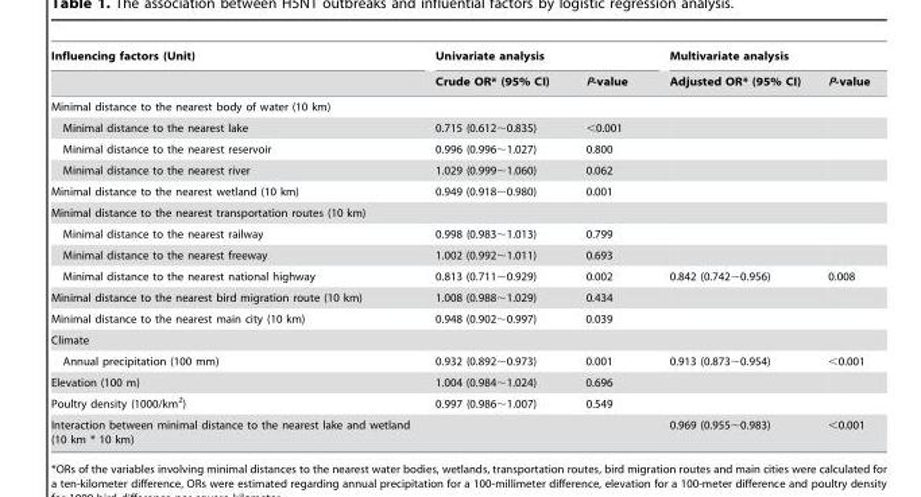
<table><thead><tr><td rowspan="2">Influencing factors (Unit)</td><td colspan="2">Univariate analysis</td><td colspan="2">Multivariate analysis</td></tr><tr><td>Crude OR* (95% CI)</td><td>P-value</td><td>Adjusted OR* (95% CI)</td><td>P-value</td></tr></thead><tbody><tr><td colspan="5">Minimal distance to the nearest body of water (10 km)</td></tr><tr><td>Minimal distance to the nearest lake</td><td>0.715 (0.612∼0.835)</td><td>&lt;0.001</td><td></td><td></td></tr><tr><td>Minimal distance to the nearest reservoir</td><td>0.996 (0.996∼1.027)</td><td>0.800</td><td></td><td></td></tr><tr><td>Minimal distance to the nearest river</td><td>1.029 (0.999∼1.060)</td><td>0.062</td><td></td><td></td></tr><tr><td>Minimal distance to the nearest wetland (10 km)</td><td>0.949 (0.918∼0.980)</td><td>0.001</td><td></td><td></td></tr><tr><td colspan="5">Minimal distance to the nearest transportation routes (10 km)</td></tr><tr><td>Minimal distance to the nearest railway</td><td>0.998 (0.983∼1.013)</td><td>0.799</td><td></td><td></td></tr><tr><td>Minimal distance to the nearest freeway</td><td>1.002 (0.992∼1.011)</td><td>0.693</td><td></td><td></td></tr><tr><td>Minimal distance to the nearest national highway</td><td>0.813 (0.711∼0.929)</td><td>0.002</td><td>0.842 (0.742∼0.956)</td><td>0.008</td></tr><tr><td>Minimal distance to the nearest bird migration route (10 km)</td><td>1.008 (0.988∼1.029)</td><td>0.434</td><td></td><td></td></tr><tr><td>Minimal distance to the nearest main city (10 km)</td><td>0.948 (0.902∼0.997)</td><td>0.039</td><td></td><td></td></tr><tr><td colspan="5">Climate</td></tr><tr><td>Annual precipitation (100 mm)</td><td>0.932 (0.892∼0.973)</td><td>0.001</td><td>0.913 (0.873∼0.954)</td><td>&lt;0.001</td></tr><tr><td>Elevation (100 m)</td><td>1.004 (0.984∼1.024)</td><td>0.696</td><td></td><td></td></tr><tr><td>Poultry density (1000/km<sup>2</sup>)</td><td>0.997 (0.986∼1.007)</td><td>0.549</td><td></td><td></td></tr><tr><td>Interaction between minimal distance to the nearest lake and wetland (10 km * 10 km)</td><td></td><td></td><td>0.969 (0.955∼0.983)</td><td>&lt;0.001</td></tr></tbody></table>